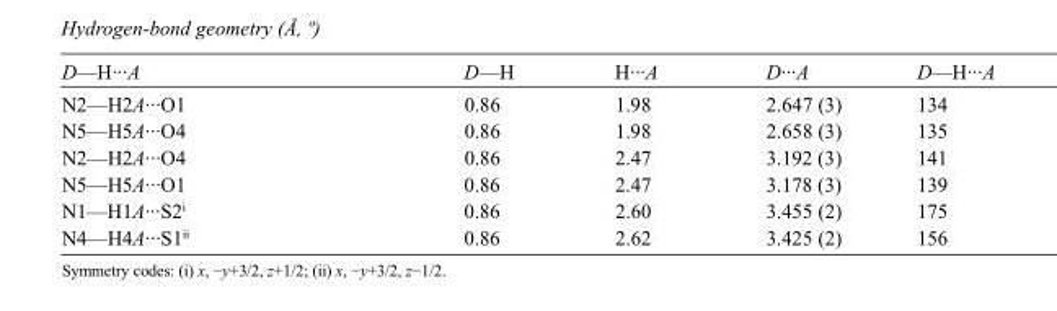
<table><tbody><tr><td>D—H···A</td><td>D—H</td><td>H···A</td><td>D···A</td><td>D—H···A</td></tr><tr><td>N2—H2A···O1</td><td>0.86</td><td>1.98</td><td>2.647 (3)</td><td>134</td></tr><tr><td>N5—H5A···O4</td><td>0.86</td><td>1.98</td><td>2.658 (3)</td><td>135</td></tr><tr><td>N2—H2A···O4</td><td>0.86</td><td>2.47</td><td>3.192 (3)</td><td>141</td></tr><tr><td>N5—H5A···O1</td><td>0.86</td><td>2.47</td><td>3.178 (3)</td><td>139</td></tr><tr><td>N1—H1A···S2<sup>i</sup></td><td>0.86</td><td>2.60</td><td>3.455 (2)</td><td>175</td></tr><tr><td>N4—H4A···S1<sup>ii</sup></td><td>0.86</td><td>2.62</td><td>3.425 (2)</td><td>156</td></tr></tbody></table>